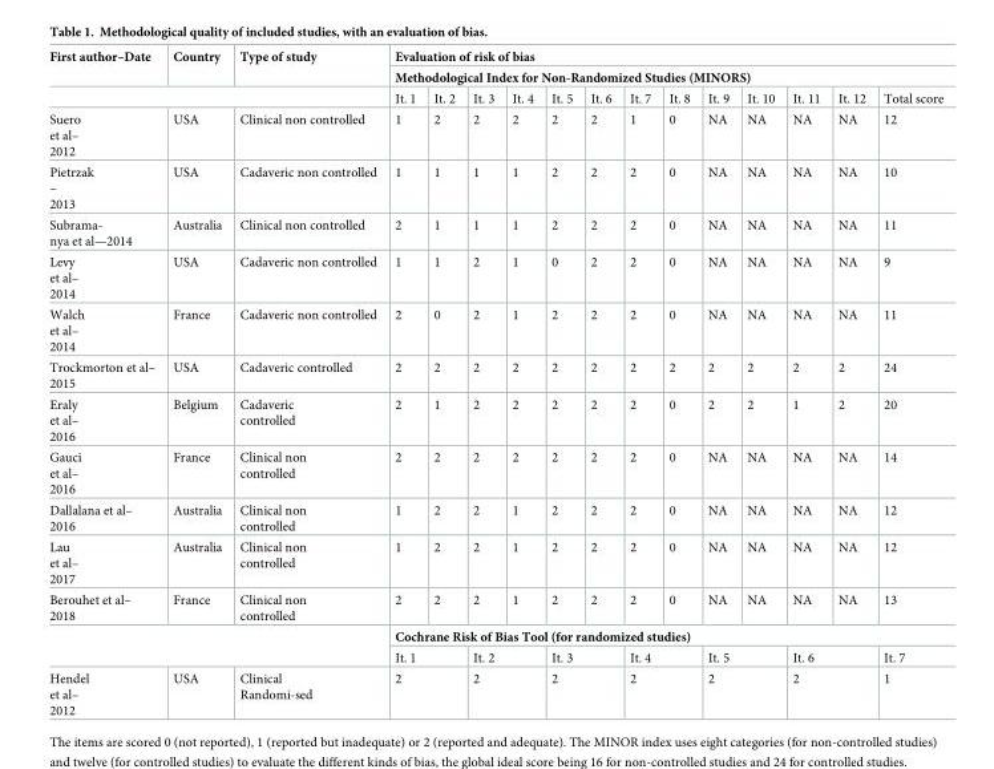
<table><tbody><tr><td rowspan="2">First author–Date</td><td rowspan="2">Country</td><td rowspan="2">Type of study</td><td colspan="13">Evaluation of risk of bias</td></tr><tr><td colspan="13">Methodological Index for Non-Randomized Studies (MINORS)</td></tr><tr><td colspan="3"></td><td>It. 1</td><td>It. 2</td><td>It. 3</td><td>It. 4</td><td>It. 5</td><td>It. 6</td><td>It. 7</td><td>It. 8</td><td>It. 9</td><td>It. 10</td><td>It. 11</td><td>It. 12</td><td>Total score</td></tr><tr><td>Suero et al– 2012</td><td>USA</td><td>Clinical non controlled</td><td>1</td><td>2</td><td>2</td><td>2</td><td>2</td><td>2</td><td>1</td><td>0</td><td>NA</td><td>NA</td><td>NA</td><td>NA</td><td>12</td></tr><tr><td>Pietrzak – 2013</td><td>USA</td><td>Cadaveric non controlled</td><td>1</td><td>1</td><td>1</td><td>1</td><td>2</td><td>2</td><td>2</td><td>0</td><td>NA</td><td>NA</td><td>NA</td><td>NA</td><td>10</td></tr><tr><td>Subrama- nya et al—2014</td><td>Australia</td><td>Clinical non controlled</td><td>2</td><td>1</td><td>1</td><td>1</td><td>2</td><td>2</td><td>2</td><td>0</td><td>NA</td><td>NA</td><td>NA</td><td>NA</td><td>11</td></tr><tr><td>Levy et al– 2014</td><td>USA</td><td>Cadaveric non controlled</td><td>1</td><td>1</td><td>2</td><td>1</td><td>0</td><td>2</td><td>2</td><td>0</td><td>NA</td><td>NA</td><td>NA</td><td>NA</td><td>9</td></tr><tr><td>Walch et al– 2014</td><td>France</td><td>Cadaveric non controlled</td><td>2</td><td>0</td><td>2</td><td>1</td><td>2</td><td>2</td><td>2</td><td>0</td><td>NA</td><td>NA</td><td>NA</td><td>NA</td><td>11</td></tr><tr><td>Trockmorton et al– 2015</td><td>USA</td><td>Cadaveric controlled</td><td>2</td><td>2</td><td>2</td><td>2</td><td>2</td><td>2</td><td>2</td><td>2</td><td>2</td><td>2</td><td>2</td><td>2</td><td>24</td></tr><tr><td>Eraly et al– 2016</td><td>Belgium</td><td>Cadaveric controlled</td><td>2</td><td>1</td><td>2</td><td>2</td><td>2</td><td>2</td><td>2</td><td>0</td><td>2</td><td>2</td><td>1</td><td>2</td><td>20</td></tr><tr><td>Gauci et al– 2016</td><td>France</td><td>Clinical non controlled</td><td>2</td><td>2</td><td>2</td><td>2</td><td>2</td><td>2</td><td>2</td><td>0</td><td>NA</td><td>NA</td><td>NA</td><td>NA</td><td>14</td></tr><tr><td>Dallalana et al– 2016</td><td>Australia</td><td>Clinical non controlled</td><td>1</td><td>2</td><td>2</td><td>1</td><td>2</td><td>2</td><td>2</td><td>0</td><td>NA</td><td>NA</td><td>NA</td><td>NA</td><td>12</td></tr><tr><td>Lau et al– 2017</td><td>Australia</td><td>Clinical non controlled</td><td>1</td><td>2</td><td>2</td><td>1</td><td>2</td><td>2</td><td>2</td><td>0</td><td>NA</td><td>NA</td><td>NA</td><td>NA</td><td>12</td></tr><tr><td>Berouhet et al– 2018</td><td>France</td><td>Clinical non controlled</td><td>2</td><td>2</td><td>2</td><td>1</td><td>2</td><td>2</td><td>2</td><td>0</td><td>NA</td><td>NA</td><td>NA</td><td>NA</td><td>13</td></tr><tr><td rowspan="2" colspan="3"></td><td colspan="13">Cochrane Risk of Bias Tool (for randomized studies)</td></tr><tr><td colspan="2">It. 1</td><td colspan="2">It. 2</td><td colspan="2">It. 3</td><td colspan="2">It. 4</td><td colspan="2">It. 5</td><td colspan="2">It. 6</td><td>It. 7</td></tr><tr><td>Hendel et al– 2012</td><td>USA</td><td>Clinical Randomi-sed</td><td colspan="2">2</td><td colspan="2">2</td><td colspan="2">2</td><td colspan="2">2</td><td colspan="2">2</td><td colspan="2">2</td><td>1</td></tr></tbody></table>